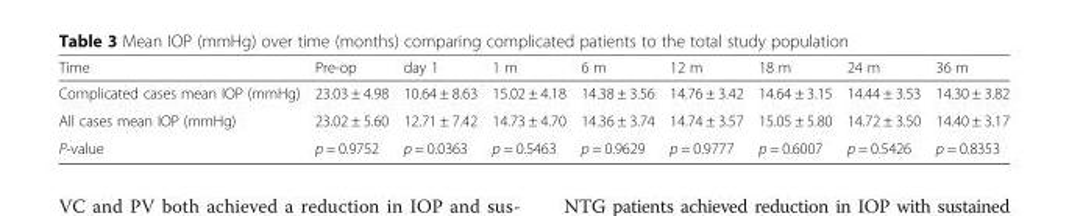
<table><thead><tr><td>Time</td><td>Pre-op</td><td>day 1</td><td>1 m</td><td>6 m</td><td>12 m</td><td>18 m</td><td>24 m</td><td>36 m</td></tr></thead><tbody><tr><td>Complicated cases mean IOP (mmHg)</td><td>23.03 ± 4.98</td><td>10.64 ± 8.63</td><td>15.02 ± 4.18</td><td>14.38 ± 3.56</td><td>14.76 ± 3.42</td><td>14.64 ± 3.15</td><td>14.44 ± 3.53</td><td>14.30 ± 3.82</td></tr><tr><td>All cases mean IOP (mmHg)</td><td>23.02 ± 5.60</td><td>12.71 ± 7.42</td><td>14.73 ± 4.70</td><td>14.36 ± 3.74</td><td>14.74 ± 3.57</td><td>15.05 ± 5.80</td><td>14.72 ± 3.50</td><td>14.40 ± 3.17</td></tr><tr><td>P-value</td><td>p = 0.9752</td><td>p = 0.0363</td><td>p = 0.5463</td><td>p = 0.9629</td><td>p = 0.9777</td><td>p = 0.6007</td><td>p = 0.5426</td><td>p = 0.8353</td></tr></tbody></table>